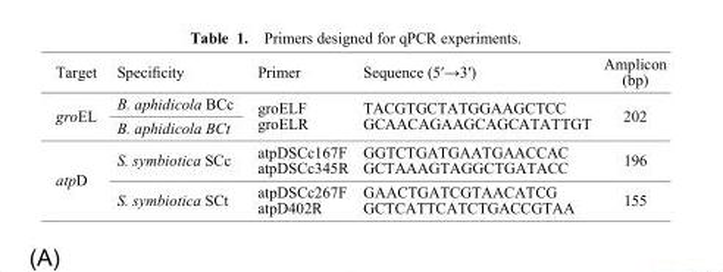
<table><thead><tr><td>Target</td><td>Specificity</td><td>Primer</td><td>Sequence (5ʹ→3ʹ)</td><td>Amplicon (bp)</td></tr></thead><tbody><tr><td rowspan="2">groEL</td><td>B. aphidicola BCc</td><td rowspan="2">groELF groELR</td><td rowspan="2">TACGTGCTATGGAAGCTCC GCAACAGAAGCAGCATATTGT</td><td rowspan="2">202</td></tr><tr><td>B. aphidicola BCt</td></tr><tr><td rowspan="2">atpD</td><td>S. symbiotica SCc</td><td>atpDSCc167F atpDSCc345R</td><td>GGTCTGATGAATGAACCAC GCTAAAGTAGGCTGATACC</td><td>196</td></tr><tr><td>S. symbiotica SCt</td><td>atpDSCc267F atpD402R</td><td>GAACTGATCGTAACATCG GCTCATTCATCTGACCGTAA</td><td>155</td></tr></tbody></table>